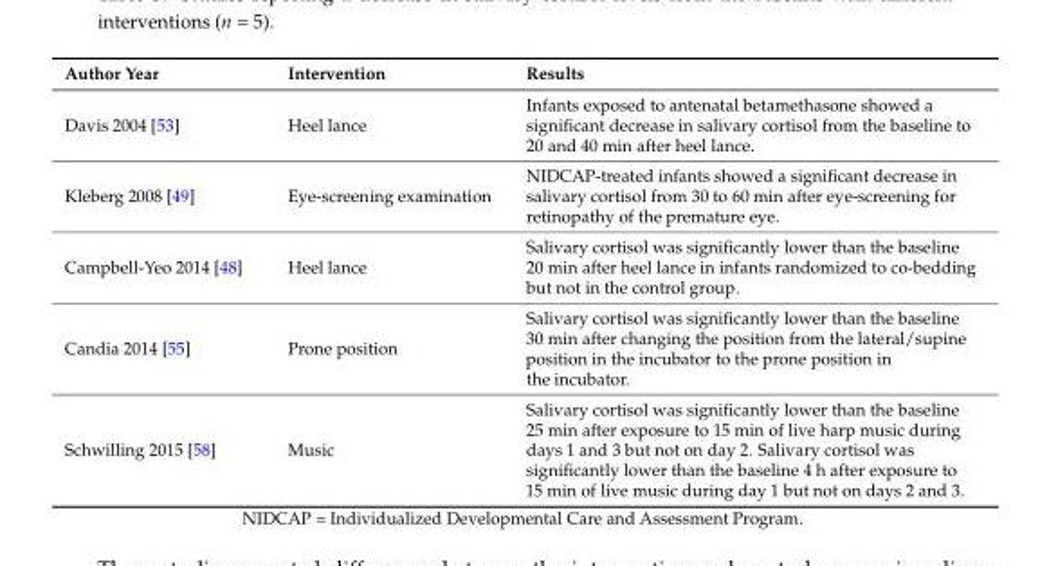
<table><thead><tr><td>Author Year</td><td>Intervention</td><td>Results</td></tr></thead><tbody><tr><td>Davis 2004 [53]</td><td>Heel lance</td><td>Infants exposed to antenatal betamethasone showed a significant decrease in salivary cortisol from the baseline to 20 and 40 min after heel lance.</td></tr><tr><td>Kleberg 2008 [49]</td><td>Eye-screening examination</td><td>NIDCAP-treated infants showed a significant decrease in salivary cortisol from 30 to 60 min after eye-screening for retinopathy of the premature eye.</td></tr><tr><td>Campbell-Yeo 2014 [48]</td><td>Heel lance</td><td>Salivary cortisol was significantly lower than the baseline 20 min after heel lance in infants randomized to co-bedding but not in the control group.</td></tr><tr><td>Candia 2014 [55]</td><td>Prone position</td><td>Salivary cortisol was significantly lower than the baseline 30 min after changing the position from the lateral/supine position in the incubator to the prone position in the incubator.</td></tr><tr><td>Schwilling 2015 [58]</td><td>Music</td><td>Salivary cortisol was significantly lower than the baseline 25 min after exposure to 15 min of live harp music during days 1 and 3 but not on day 2. Salivary cortisol was significantly lower than the baseline 4 h after exposure to 15 min of live music during day 1 but not on days 2 and 3.</td></tr></tbody></table>